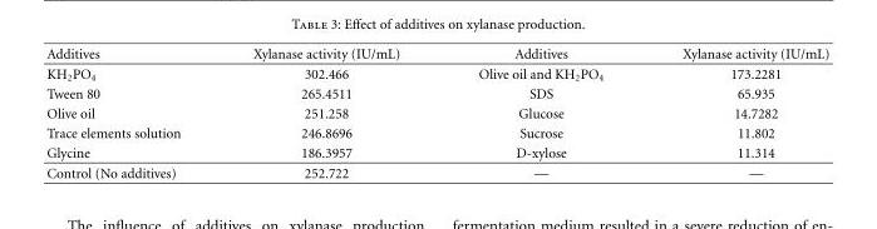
<table><thead><tr><td>Additives</td><td>Xylanase activity (IU/mL)</td><td>Additives</td><td>Xylanase activity (IU/mL)</td></tr></thead><tbody><tr><td>KH<sub>2</sub>PO<sub>4</sub></td><td>302.466</td><td>Olive oil and KH<sub>2</sub>PO<sub>4</sub></td><td>173.2281</td></tr><tr><td>Tween 80</td><td>265.4511</td><td>SDS</td><td>65.935</td></tr><tr><td>Olive oil</td><td>251.258</td><td>Glucose</td><td>14.7282</td></tr><tr><td>Trace elements solution</td><td>246.8696</td><td>Sucrose</td><td>11.802</td></tr><tr><td>Glycine</td><td>186.3957</td><td>D-xylose</td><td>11.314</td></tr><tr><td>Control (No additives)</td><td>252.722</td><td>—</td><td>—</td></tr></tbody></table>